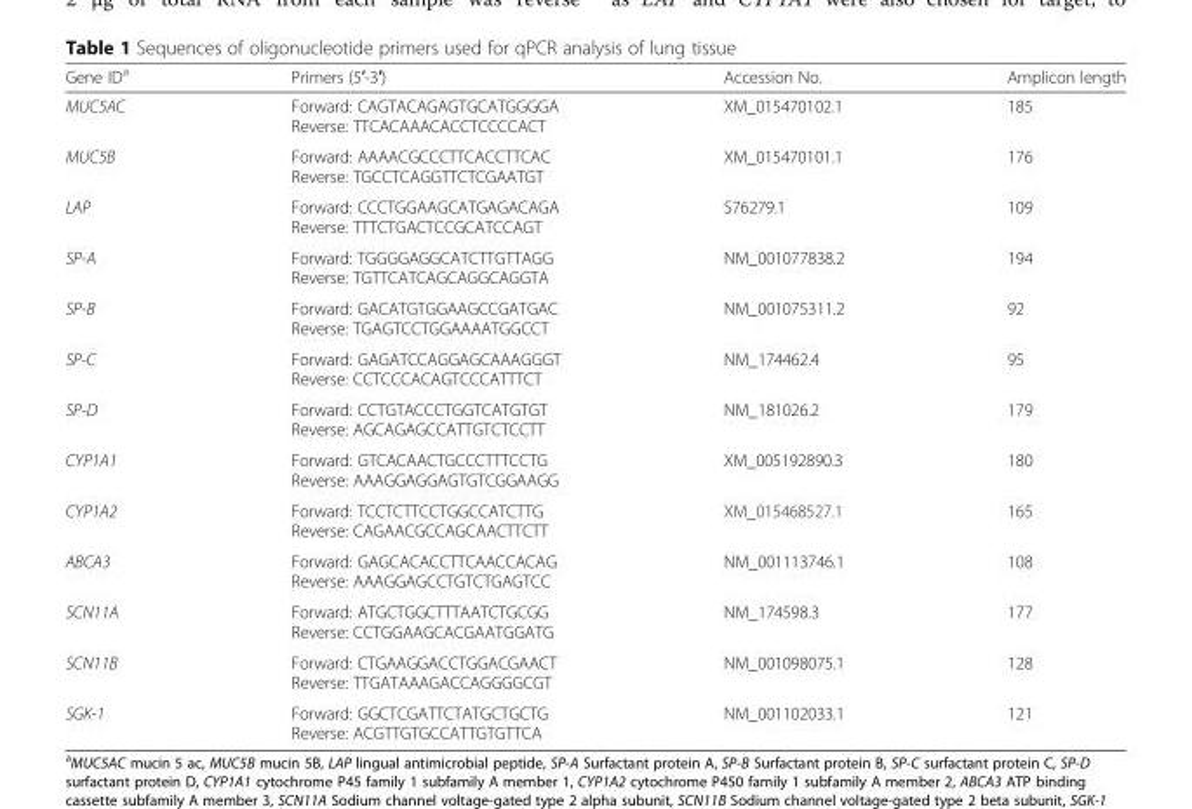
<table><thead><tr><td>Gene ID<sup>a</sup></td><td>Primers (5′-3′)</td><td>Accession No.</td><td>Amplicon length</td></tr></thead><tbody><tr><td>MUC5AC</td><td>Forward: CAGTACAGAGTGCATGGGGA Reverse: TTCACAAACACCTCCCCACT</td><td>XM_015470102.1</td><td>185</td></tr><tr><td>MUC5B</td><td>Forward: AAAACGCCCTTCACCTTCAC Reverse: TGCCTCAGGTTCTCGAATGT</td><td>XM_015470101.1</td><td>176</td></tr><tr><td>LAP</td><td>Forward: CCCTGGAAGCATGAGACAGA Reverse: TTTCTGACTCCGCATCCAGT</td><td>S76279.1</td><td>109</td></tr><tr><td>SP-A</td><td>Forward: TGGGGAGGCATCTTGTTAGG Reverse: TGTTCATCAGCAGGCAGGTA</td><td>NM_001077838.2</td><td>194</td></tr><tr><td>SP-B</td><td>Forward: GACATGTGGAAGCCGATGAC Reverse: TGAGTCCTGGAAAATGGCCT</td><td>NM_001075311.2</td><td>92</td></tr><tr><td>SP-C</td><td>Forward: GAGATCCAGGAGCAAAGGGT Reverse: CCTCCCACAGTCCCATTTCT</td><td>NM_174462.4</td><td>95</td></tr><tr><td>SP-D</td><td>Forward: CCTGTACCCTGGTCATGTGT Reverse: AGCAGAGCCATTGTCTCCTT</td><td>NM_181026.2</td><td>179</td></tr><tr><td>CYP1A1</td><td>Forward: GTCACAACTGCCCTTTCCTG Reverse: AAAGGAGGAGTGTCGGAAGG</td><td>XM_005192890.3</td><td>180</td></tr><tr><td>CYP1A2</td><td>Forward: TCCTCTTCCTGGCCATCTTG Reverse: CAGAACGCCAGCAACTTCTT</td><td>XM_015468527.1</td><td>165</td></tr><tr><td>ABCA3</td><td>Forward: GAGCACACCTTCAACCACAG Reverse: AAAGGAGCCTGTCTGAGTCC</td><td>NM_001113746.1</td><td>108</td></tr><tr><td>SCN11A</td><td>Forward: ATGCTGGCTTTAATCTGCGG Reverse: CCTGGAAGCACGAATGGATG</td><td>NM_174598.3</td><td>177</td></tr><tr><td>SCN11B</td><td>Forward: CTGAAGGACCTGGACGAACT Reverse: TTGATAAAGACCAGGGGCGT</td><td>NM_001098075.1</td><td>128</td></tr><tr><td>SGK-1</td><td>Forward: GGCTCGATTCTATGCTGCTG Reverse: ACGTTGTGCCATTGTGTTCA</td><td>NM_001102033.1</td><td>121</td></tr></tbody></table>